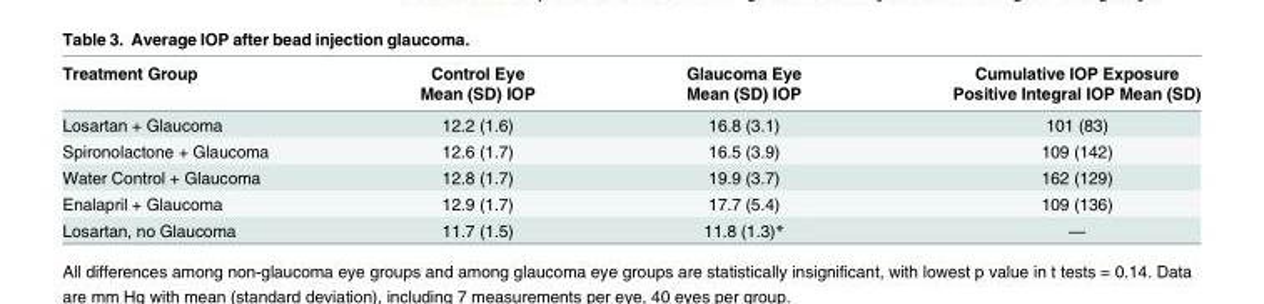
<table><thead><tr><td rowspan="2">Treatment Group</td><td rowspan="2">Control Eye Mean (SD) IOP</td><td rowspan="2">Glaucoma Eye Mean (SD) IOP</td><td rowspan="2">Cumulative IOP Exposure Positive Integral IOP Mean (SD)</td></tr><tr></tr></thead><tbody><tr><td>Losartan + Glaucoma</td><td>12.2 (1.6)</td><td>16.8 (3.1)</td><td>101 (83)</td></tr><tr><td>Spironolactone + Glaucoma</td><td>12.6 (1.7)</td><td>16.5 (3.9)</td><td>109 (142)</td></tr><tr><td>Water Control + Glaucoma</td><td>12.8 (1.7)</td><td>19.9 (3.7)</td><td>162 (129)</td></tr><tr><td>Enalapril + Glaucoma</td><td>12.9 (1.7)</td><td>17.7 (5.4)</td><td>109 (136)</td></tr><tr><td>Losartan, no Glaucoma</td><td>11.7 (1.5)</td><td>11.8 (1.3)*</td><td>—</td></tr></tbody></table>